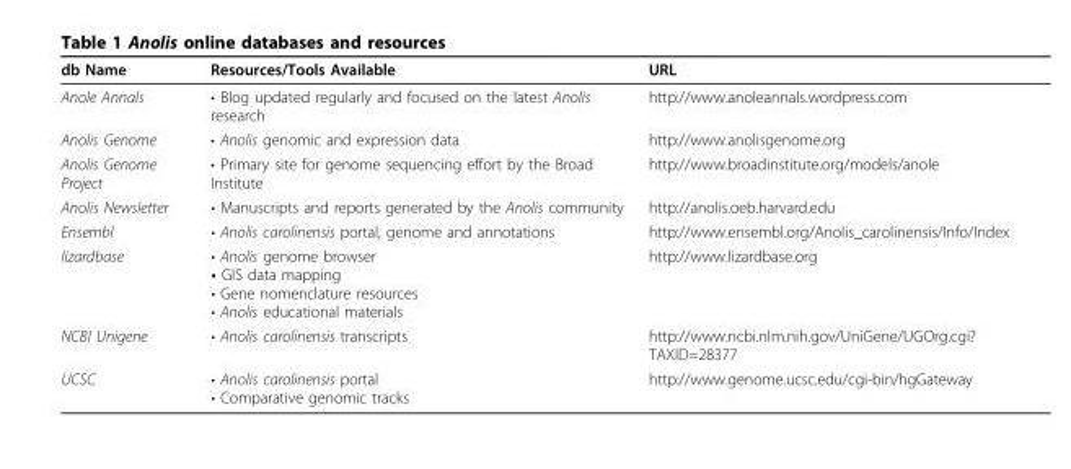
<table><thead><tr><td>db Name</td><td>Resources/Tools Available</td><td>URL</td></tr></thead><tbody><tr><td>Anole Annals</td><td>• Blog updated regularly and focused on the latest Anolis research</td><td>http://www.anoleannals.wordpress.com</td></tr><tr><td>Anolis Genome</td><td>• Anolis genomic and expression data</td><td>http://www.anolisgenome.org</td></tr><tr><td>Anolis Genome Project</td><td>• Primary site for genome sequencing effort by the Broad Institute</td><td>http://www.broadinstitute.org/models/anole</td></tr><tr><td>Anolis Newsletter</td><td>• Manuscripts and reports generated by the Anolis community</td><td>http://anolis.oeb.harvard.edu</td></tr><tr><td>Ensembl</td><td>• Anolis carolinensis portal, genome and annotations</td><td>http://www.ensembl.org/Anolis_carolinensis/Info/Index</td></tr><tr><td>lizardbase</td><td>• Anolis genome browser • GIS data mapping • Gene nomenclature resources • Anolis educational materials</td><td>http://www.lizardbase.org</td></tr><tr><td>NCBI Unigene</td><td>• Anolis carolinensis transcripts</td><td>http://www.ncbi.nlm.nih.gov/UniGene/UGOrg.cgi? TAXID=28377</td></tr><tr><td>UCSC</td><td>• Anolis carolinensis portal • Comparative genomic tracks</td><td>http://www.genome.ucsc.edu/cgi-bin/hgGateway</td></tr></tbody></table>